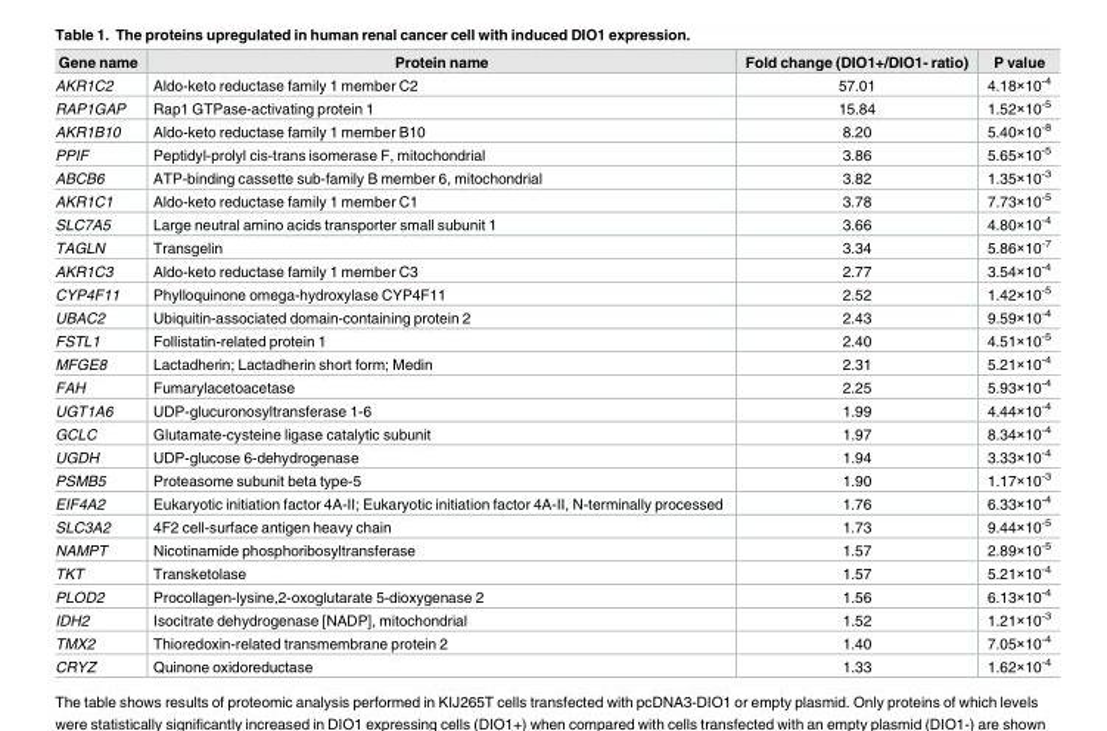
<table><thead><tr><td>Gene name</td><td>Protein name</td><td>Fold change (DIO1+/DIO1- ratio)</td><td>P value</td></tr></thead><tbody><tr><td>AKR1C2</td><td>Aldo-keto reductase family 1 member C2</td><td>57.01</td><td>4.18×10<sup>-4</sup></td></tr><tr><td>RAP1GAP</td><td>Rap1 GTPase-activating protein 1</td><td>15.84</td><td>1.52×10<sup>-5</sup></td></tr><tr><td>AKR1B10</td><td>Aldo-keto reductase family 1 member B10</td><td>8.20</td><td>5.40×10<sup>-8</sup></td></tr><tr><td>PPIF</td><td>Peptidyl-prolyl cis-trans isomerase F, mitochondrial</td><td>3.86</td><td>5.65×10<sup>-5</sup></td></tr><tr><td>ABCB6</td><td>ATP-binding cassette sub-family B member 6, mitochondrial</td><td>3.82</td><td>1.35×10<sup>-3</sup></td></tr><tr><td>AKR1C1</td><td>Aldo-keto reductase family 1 member C1</td><td>3.78</td><td>7.73×10<sup>-5</sup></td></tr><tr><td>SLC7A5</td><td>Large neutral amino acids transporter small subunit 1</td><td>3.66</td><td>4.80×10<sup>-4</sup></td></tr><tr><td>TAGLN</td><td>Transgelin</td><td>3.34</td><td>5.86×10<sup>-7</sup></td></tr><tr><td>AKR1C3</td><td>Aldo-keto reductase family 1 member C3</td><td>2.77</td><td>3.54×10<sup>-4</sup></td></tr><tr><td>CYP4F11</td><td>Phylloquinone omega-hydroxylase CYP4F11</td><td>2.52</td><td>1.42×10<sup>-5</sup></td></tr><tr><td>UBAC2</td><td>Ubiquitin-associated domain-containing protein 2</td><td>2.43</td><td>9.59×10<sup>-4</sup></td></tr><tr><td>FSTL1</td><td>Follistatin-related protein 1</td><td>2.40</td><td>4.51×10<sup>-5</sup></td></tr><tr><td>MFGE8</td><td>Lactadherin; Lactadherin short form; Medin</td><td>2.31</td><td>5.21×10<sup>-4</sup></td></tr><tr><td>FAH</td><td>Fumarylacetoacetase</td><td>2.25</td><td>5.93×10<sup>-4</sup></td></tr><tr><td>UGT1A6</td><td>UDP-glucuronosyltransferase 1-6</td><td>1.99</td><td>4.44×10<sup>-4</sup></td></tr><tr><td>GCLC</td><td>Glutamate-cysteine ligase catalytic subunit</td><td>1.97</td><td>8.34×10<sup>-4</sup></td></tr><tr><td>UGDH</td><td>UDP-glucose 6-dehydrogenase</td><td>1.94</td><td>3.33×10<sup>-4</sup></td></tr><tr><td>PSMB5</td><td>Proteasome subunit beta type-5</td><td>1.90</td><td>1.17×10<sup>-3</sup></td></tr><tr><td>EIF4A2</td><td>Eukaryotic initiation factor 4A-II; Eukaryotic initiation factor 4A-II, N-terminally processed</td><td>1.76</td><td>6.33×10<sup>-4</sup></td></tr><tr><td>SLC3A2</td><td>4F2 cell-surface antigen heavy chain</td><td>1.73</td><td>9.44×10<sup>-5</sup></td></tr><tr><td>NAMPT</td><td>Nicotinamide phosphoribosyltransferase</td><td>1.57</td><td>2.89×10<sup>-5</sup></td></tr><tr><td>TKT</td><td>Transketolase</td><td>1.57</td><td>5.21×10<sup>-4</sup></td></tr><tr><td>PLOD2</td><td>Procollagen-lysine,2-oxoglutarate 5-dioxygenase 2</td><td>1.56</td><td>6.13×10<sup>-4</sup></td></tr><tr><td>IDH2</td><td>Isocitrate dehydrogenase [NADP], mitochondrial</td><td>1.52</td><td>1.21×10<sup>-3</sup></td></tr><tr><td>TMX2</td><td>Thioredoxin-related transmembrane protein 2</td><td>1.40</td><td>7.05×10<sup>-4</sup></td></tr><tr><td>CRYZ</td><td>Quinone oxidoreductase</td><td>1.33</td><td>1.62×10<sup>-4</sup></td></tr></tbody></table>